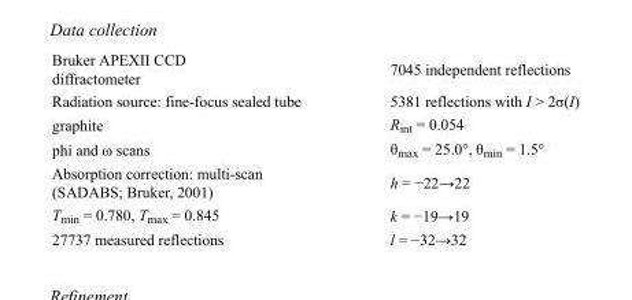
<table><tbody><tr><td>Bruker APEXII CCD diffractometer</td><td>7045 independent reflections</td></tr><tr><td>Radiation source: fine-focus sealed tube</td><td>5381 reflections with I &gt; 2σ(I)</td></tr><tr><td>graphite</td><td>R<sub>int</sub> = 0.054</td></tr><tr><td>phi and ω scans</td><td>θ<sub>max</sub> = 25.0°, θ<sub>min</sub> = 1.5°</td></tr><tr><td>Absorption correction: multi-scan (SADABS; Bruker, 2001)</td><td>h = −22→22</td></tr><tr><td>T<sub>min</sub> = 0.780, T<sub>max</sub> = 0.845</td><td>k = −19→19</td></tr><tr><td>27737 measured reflections</td><td>l = −32→32</td></tr></tbody></table>